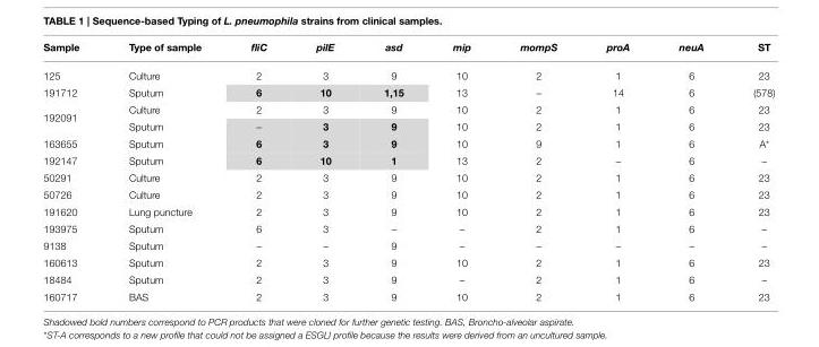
<table><thead><tr><td>Sample</td><td>Type of sample</td><td>fliC</td><td>pilE</td><td>asd</td><td>mip</td><td>mompS</td><td>proA</td><td>neuA</td><td>ST</td></tr></thead><tbody><tr><td>125</td><td>Culture</td><td>2</td><td>3</td><td>9</td><td>10</td><td>2</td><td>1</td><td>6</td><td>23</td></tr><tr><td>191712</td><td>Sputum</td><td>6</td><td>10</td><td>1,15</td><td>13</td><td>–</td><td>14</td><td>6</td><td>(578)</td></tr><tr><td rowspan="2">192091</td><td>Culture</td><td>2</td><td>3</td><td>9</td><td>10</td><td>2</td><td>1</td><td>6</td><td>23</td></tr><tr><td>Sputum</td><td>–</td><td>3</td><td>9</td><td>10</td><td>2</td><td>1</td><td>6</td><td>23</td></tr><tr><td>163655</td><td>Sputum</td><td>6</td><td>3</td><td>9</td><td>10</td><td>9</td><td>1</td><td>6</td><td>A*</td></tr><tr><td>192147</td><td>Sputum</td><td>6</td><td>10</td><td>1</td><td>13</td><td>2</td><td>–</td><td>6</td><td>–</td></tr><tr><td>50291</td><td>Culture</td><td>2</td><td>3</td><td>9</td><td>10</td><td>2</td><td>1</td><td>6</td><td>23</td></tr><tr><td>50726</td><td>Culture</td><td>2</td><td>3</td><td>9</td><td>10</td><td>2</td><td>1</td><td>6</td><td>23</td></tr><tr><td>191620</td><td>Lung puncture</td><td>2</td><td>3</td><td>9</td><td>10</td><td>2</td><td>1</td><td>6</td><td>23</td></tr><tr><td>193975</td><td>Sputum</td><td>6</td><td>3</td><td>–</td><td>–</td><td>2</td><td>1</td><td>6</td><td>–</td></tr><tr><td>9138</td><td>Sputum</td><td>–</td><td>–</td><td>9</td><td>–</td><td>–</td><td>–</td><td>–</td><td>–</td></tr><tr><td>160613</td><td>Sputum</td><td>2</td><td>3</td><td>9</td><td>10</td><td>2</td><td>1</td><td>6</td><td>23</td></tr><tr><td>18484</td><td>Sputum</td><td>2</td><td>3</td><td>9</td><td>–</td><td>2</td><td>1</td><td>6</td><td>–</td></tr><tr><td>160717</td><td>BAS</td><td>2</td><td>3</td><td>9</td><td>10</td><td>2</td><td>1</td><td>6</td><td>23</td></tr></tbody></table>